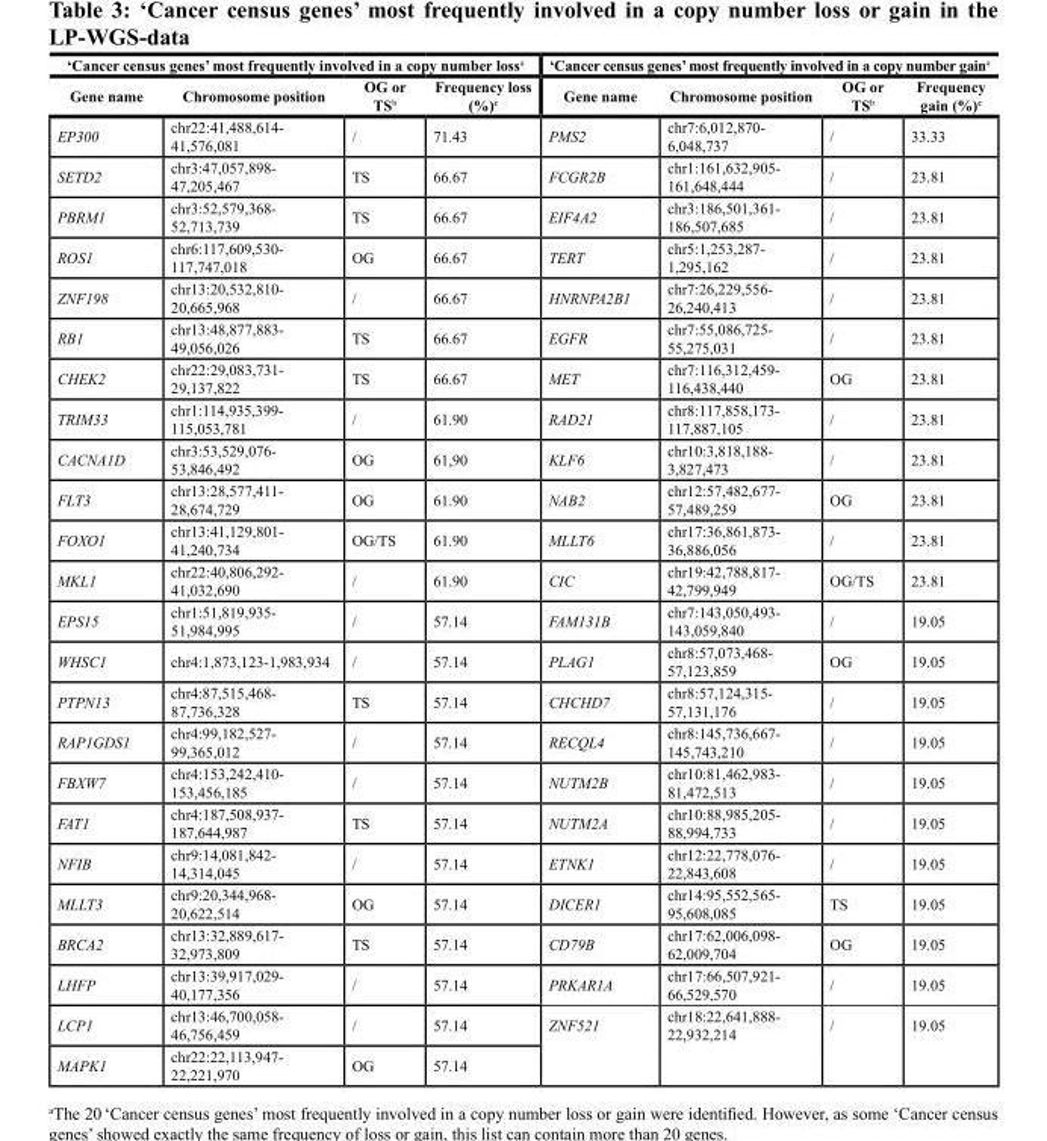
<table><thead><tr><td colspan="4">‘Cancer census genes’ most frequently involved in a copy number loss<sup>a</sup></td><td colspan="4">‘Cancer census genes’ most frequently involved in a copy number gain<sup>a</sup></td></tr><tr><td>Gene name</td><td>Chromosome position</td><td>OG or TS<sup>b</sup></td><td>Frequency loss (%)<sup>c</sup></td><td>Gene name</td><td>Chromosome position</td><td>OG or TS<sup>b</sup></td><td>Frequency gain (%)<sup>c</sup></td></tr></thead><tbody><tr><td>EP300</td><td>chr22:41,488,614- 41,576,081</td><td>/</td><td>71.43</td><td>PMS2</td><td>chr7:6,012,870- 6,048,737</td><td>/</td><td>33.33</td></tr><tr><td>SETD2</td><td>chr3:47,057,898- 47,205,467</td><td>TS</td><td>66.67</td><td>FCGR2B</td><td>chr1:161,632,905- 161,648,444</td><td>/</td><td>23.81</td></tr><tr><td>PBRM1</td><td>chr3:52,579,368- 52,713,739</td><td>TS</td><td>66.67</td><td>EIF4A2</td><td>chr3:186,501,361- 186,507,685</td><td>/</td><td>23.81</td></tr><tr><td>ROS1</td><td>chr6:117,609,530- 117,747,018</td><td>OG</td><td>66.67</td><td>TERT</td><td>chr5:1,253,287- 1,295,162</td><td>/</td><td>23.81</td></tr><tr><td>ZNF198</td><td>chr13:20,532,810- 20,665,968</td><td>/</td><td>66.67</td><td>HNRNPA2B1</td><td>chr7:26,229,556- 26,240,413</td><td>/</td><td>23.81</td></tr><tr><td>RB1</td><td>chr13:48,877,883- 49,056,026</td><td>TS</td><td>66.67</td><td>EGFR</td><td>chr7:55,086,725- 55,275,031</td><td>/</td><td>23.81</td></tr><tr><td>CHEK2</td><td>chr22:29,083,731- 29,137,822</td><td>TS</td><td>66.67</td><td>MET</td><td>chr7:116,312,459- 116,438,440</td><td>OG</td><td>23.81</td></tr><tr><td>TRIM33</td><td>chr1:114,935,399- 115,053,781</td><td>/</td><td>61.90</td><td>RAD21</td><td>chr8:117,858,173- 117,887,105</td><td>/</td><td>23.81</td></tr><tr><td>CACNA1D</td><td>chr3:53,529,076- 53,846,492</td><td>OG</td><td>61,90</td><td>KLF6</td><td>chr10:3,818,188- 3,827,473</td><td>/</td><td>23.81</td></tr><tr><td>FLT3</td><td>chr13:28,577,411- 28,674,729</td><td>OG</td><td>61.90</td><td>NAB2</td><td>chr12:57,482,677- 57,489,259</td><td>OG</td><td>23.81</td></tr><tr><td>FOXO1</td><td>chr13:41,129,801- 41,240,734</td><td>OG/TS</td><td>61.90</td><td>MLLT6</td><td>chr17:36,861,873- 36,886,056</td><td>/</td><td>23.81</td></tr><tr><td>MKL1</td><td>chr22:40,806,292- 41,032,690</td><td>/</td><td>61.90</td><td>CIC</td><td>chr19:42,788,817- 42,799,949</td><td>OG/TS</td><td>23.81</td></tr><tr><td>EPS15</td><td>chr1:51,819,935- 51,984,995</td><td>/</td><td>57.14</td><td>FAM131B</td><td>chr7:143,050,493- 143,059,840</td><td>/</td><td>19.05</td></tr><tr><td>WHSC1</td><td>chr4:1,873,123-1,983,934</td><td>/</td><td>57.14</td><td>PLAG1</td><td>chr8:57,073,468- 57,123,859</td><td>OG</td><td>19.05</td></tr><tr><td>PTPN13</td><td>chr4:87,515,468- 87,736,328</td><td>TS</td><td>57.14</td><td>CHCHD7</td><td>chr8:57,124,315- 57,131,176</td><td>/</td><td>19.05</td></tr><tr><td>RAP1GDS1</td><td>chr4:99,182,527- 99,365,012</td><td>/</td><td>57.14</td><td>RECQL4</td><td>chr8:145,736,667- 145,743,210</td><td>/</td><td>19.05</td></tr><tr><td>FBXW7</td><td>chr4:153,242,410- 153,456,185</td><td>/</td><td>57.14</td><td>NUTM2B</td><td>chr10:81,462,983- 81,472,513</td><td>/</td><td>19.05</td></tr><tr><td>FAT1</td><td>chr4:187,508,937- 187,644,987</td><td>TS</td><td>57.14</td><td>NUTM2A</td><td>chr10:88,985,205- 88,994,733</td><td>/</td><td>19.05</td></tr><tr><td>NFIB</td><td>chr9:14,081,842- 14,314,045</td><td>/</td><td>57.14</td><td>ETNK1</td><td>chr12:22,778,076- 22,843,608</td><td>/</td><td>19.05</td></tr><tr><td>MLLT3</td><td>chr9:20,344,968- 20,622,514</td><td>OG</td><td>57.14</td><td>DICER1</td><td>chr14:95,552,565- 95,608,085</td><td>TS</td><td>19.05</td></tr><tr><td>BRCA2</td><td>chr13:32,889,617- 32,973,809</td><td>TS</td><td>57.14</td><td>CD79B</td><td>chr17:62,006,098- 62,009,704</td><td>OG</td><td>19.05</td></tr><tr><td>LHFP</td><td>chr13:39,917,029- 40,177,356</td><td>/</td><td>57.14</td><td>PRKAR1A</td><td>chr17:66,507,921- 66,529,570</td><td>/</td><td>19.05</td></tr><tr><td>LCP1</td><td>chr13:46,700,058- 46,756,459</td><td>/</td><td>57.14</td><td rowspan="2">ZNF521</td><td rowspan="2">chr18:22,641,888- 22,932,214</td><td rowspan="2">/</td><td rowspan="2">19.05</td></tr><tr><td>MAPK1</td><td>chr22:22,113,947- 22,221,970</td><td>OG</td><td>57.14</td></tr></tbody></table>